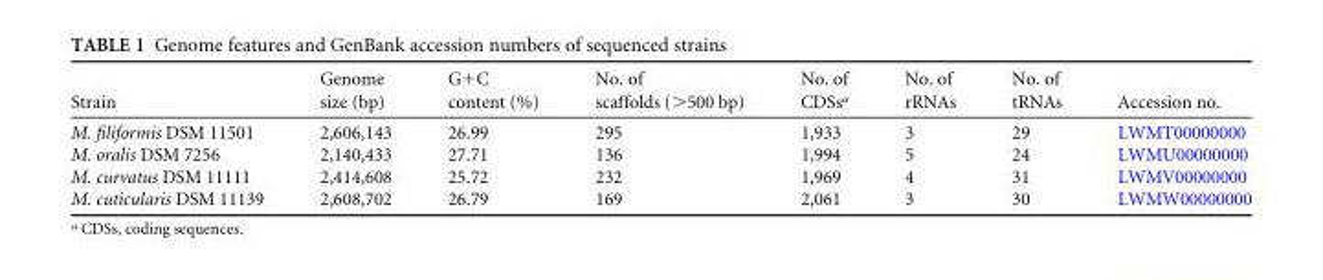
<table><thead><tr><td>Strain</td><td>Genome size (bp)</td><td>G+C content (%)</td><td>No. of scaffolds (&gt;500 bp)</td><td>No. of CDSs<sup>a</sup></td><td>No. of rRNAs</td><td>No. of tRNAs</td><td>Accession no.</td></tr></thead><tbody><tr><td>M. filiformis DSM 11501</td><td>2,606,143</td><td>26.99</td><td>295</td><td>1,933</td><td>3</td><td>29</td><td>LWMT00000000</td></tr><tr><td>M. oralis DSM 7256</td><td>2,140,433</td><td>27.71</td><td>136</td><td>1,994</td><td>5</td><td>24</td><td>LWMU00000000</td></tr><tr><td>M. curvatus DSM 11111</td><td>2,414,608</td><td>25.72</td><td>232</td><td>1,969</td><td>4</td><td>31</td><td>LWMV00000000</td></tr><tr><td>M. cuticularis DSM 11139</td><td>2,608,702</td><td>26.79</td><td>169</td><td>2,061</td><td>3</td><td>30</td><td>LWMW00000000</td></tr></tbody></table>